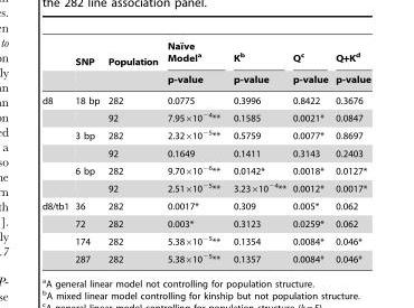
<table><thead><tr><td rowspan="2"></td><td rowspan="2">SNP</td><td rowspan="2">Population</td><td rowspan="2">Naı¨ve Modela p-value</td><td rowspan="2">K<sup>b</sup> p-value</td><td rowspan="2">Q<sup>c</sup> p-value</td><td rowspan="2">Q+K<sup>d</sup> p-value</td></tr><tr></tr></thead><tbody><tr><td rowspan="6">d8</td><td>18 bp</td><td>282</td><td>0.0775</td><td>0.3996</td><td>0.8422</td><td>0.3676</td></tr><tr><td></td><td>92</td><td>7.95×10<sup>−4</sup>**</td><td>0.1585</td><td>0.0021*</td><td>0.0847</td></tr><tr><td>3 bp</td><td>282</td><td>2.32×10<sup>−5</sup>**</td><td>0.5759</td><td>0.0077*</td><td>0.8697</td></tr><tr><td></td><td>92</td><td>0.1649</td><td>0.1411</td><td>0.3143</td><td>0.2403</td></tr><tr><td>6 bp</td><td>282</td><td>9.70×10<sup>−6</sup>**</td><td>0.0142*</td><td>0.0018*</td><td>0.0127*</td></tr><tr><td></td><td>92</td><td>2.51×10<sup>−5</sup>**</td><td>3.23×10<sup>−4</sup>**</td><td>0.0012*</td><td>0.0017*</td></tr><tr><td rowspan="4">d8/tb1</td><td>36</td><td>282</td><td>0.0017*</td><td>0.309</td><td>0.005*</td><td>0.062</td></tr><tr><td>72</td><td>282</td><td>0.003*</td><td>0.3123</td><td>0.0259*</td><td>0.062</td></tr><tr><td>174</td><td>282</td><td>5.38×10<sup>−5</sup>**</td><td>0.1354</td><td>0.0084*</td><td>0.046*</td></tr><tr><td>287</td><td>282</td><td>5.38×10<sup>−5</sup>**</td><td>0.1357</td><td>0.0084*</td><td>0.046*</td></tr></tbody></table>